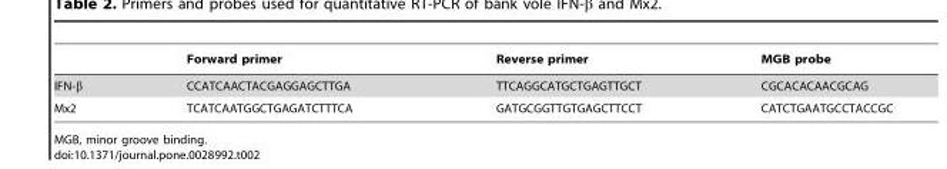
<table><thead><tr><td></td><td>Forward primer</td><td>Reverse primer</td><td>MGB probe</td></tr></thead><tbody><tr><td>IFN-β</td><td>CCATCAACTACGAGGAGCTTGA</td><td>TTCAGGCATGCTGAGTTGCT</td><td>CGCACACAACGCAG</td></tr><tr><td>Mx2</td><td>TCATCAATGGCTGAGATCTTTCA</td><td>GATGCGGTTGTGAGCTTCCT</td><td>CATCTGAATGCCTACCGC</td></tr></tbody></table>